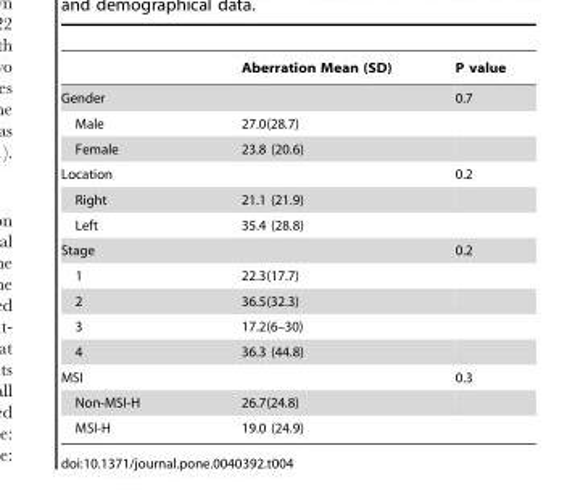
<table><thead><tr><td></td><td>Aberration Mean (SD)</td><td>P value</td></tr></thead><tbody><tr><td>Gender</td><td></td><td>0.7</td></tr><tr><td>Male</td><td>27.0(28.7)</td><td></td></tr><tr><td>Female</td><td>23.8 (20.6)</td><td></td></tr><tr><td>Location</td><td></td><td>0.2</td></tr><tr><td>Right</td><td>21.1 (21.9)</td><td></td></tr><tr><td>Left</td><td>35.4 (28.8)</td><td></td></tr><tr><td>Stage</td><td></td><td>0.2</td></tr><tr><td>1</td><td>22.3(17.7)</td><td></td></tr><tr><td>2</td><td>36.5(32.3)</td><td></td></tr><tr><td>3</td><td>17.2(6–30)</td><td></td></tr><tr><td>4</td><td>36.3 (44.8)</td><td></td></tr><tr><td>MSI</td><td></td><td>0.3</td></tr><tr><td>Non-MSI-H</td><td>26.7(24.8)</td><td></td></tr><tr><td>MSI-H</td><td>19.0 (24.9)</td><td></td></tr></tbody></table>